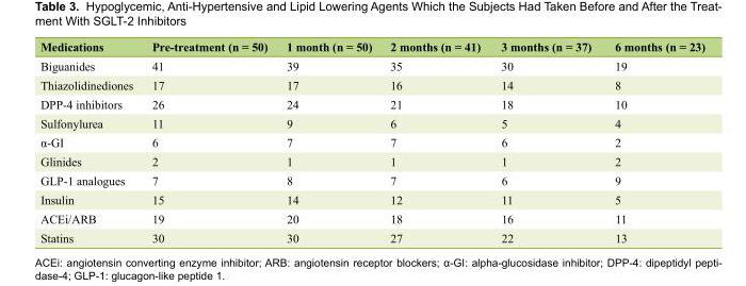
<table><thead><tr><td>Medications</td><td>Pre-treatment (n = 50)</td><td>1 month (n = 50)</td><td>2 months (n = 41)</td><td>3 months (n = 37)</td><td>6 months (n = 23)</td></tr></thead><tbody><tr><td>Biguanides</td><td>41</td><td>39</td><td>35</td><td>30</td><td>19</td></tr><tr><td>Thiazolidinediones</td><td>17</td><td>17</td><td>16</td><td>14</td><td>8</td></tr><tr><td>DPP-4 inhibitors</td><td>26</td><td>24</td><td>21</td><td>18</td><td>10</td></tr><tr><td>Sulfonylurea</td><td>11</td><td>9</td><td>6</td><td>5</td><td>4</td></tr><tr><td>α-GI</td><td>6</td><td>7</td><td>7</td><td>6</td><td>2</td></tr><tr><td>Glinides</td><td>2</td><td>1</td><td>1</td><td>1</td><td>2</td></tr><tr><td>GLP-1 analogues</td><td>7</td><td>8</td><td>7</td><td>6</td><td>9</td></tr><tr><td>Insulin</td><td>15</td><td>14</td><td>12</td><td>11</td><td>5</td></tr><tr><td>ACEi/ARB</td><td>19</td><td>20</td><td>18</td><td>16</td><td>11</td></tr><tr><td>Statins</td><td>30</td><td>30</td><td>27</td><td>22</td><td>13</td></tr></tbody></table>